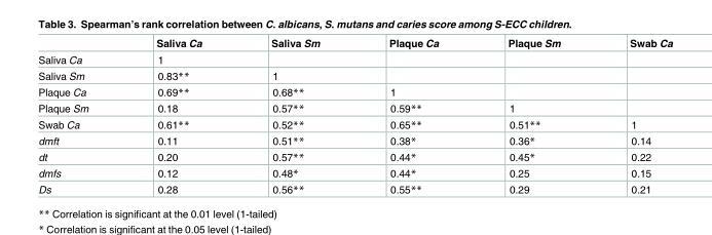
<table><thead><tr><td></td><td>Saliva Ca</td><td>Saliva Sm</td><td>Plaque Ca</td><td>Plaque Sm</td><td>Swab Ca</td></tr></thead><tbody><tr><td>Saliva Ca</td><td>1</td><td></td><td></td><td></td><td></td></tr><tr><td>Saliva Sm</td><td>0.83**</td><td>1</td><td></td><td></td><td></td></tr><tr><td>Plaque Ca</td><td>0.69**</td><td>0.68**</td><td>1</td><td></td><td></td></tr><tr><td>Plaque Sm</td><td>0.18</td><td>0.57**</td><td>0.59**</td><td>1</td><td></td></tr><tr><td>Swab Ca</td><td>0.61**</td><td>0.52**</td><td>0.65**</td><td>0.51**</td><td>1</td></tr><tr><td>dmft</td><td>0.11</td><td>0.51**</td><td>0.38*</td><td>0.36*</td><td>0.14</td></tr><tr><td>dt</td><td>0.20</td><td>0.57**</td><td>0.44*</td><td>0.45*</td><td>0.22</td></tr><tr><td>dmfs</td><td>0.12</td><td>0.48*</td><td>0.44*</td><td>0.25</td><td>0.15</td></tr><tr><td>Ds</td><td>0.28</td><td>0.56**</td><td>0.55**</td><td>0.29</td><td>0.21</td></tr></tbody></table>